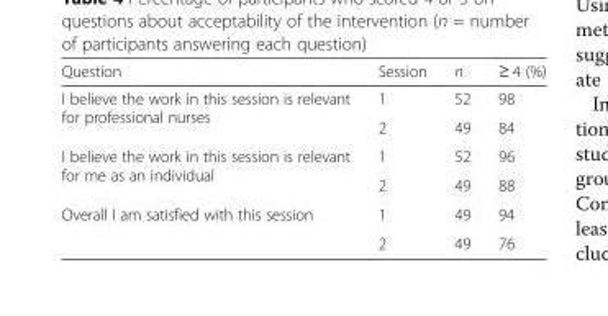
<table><thead><tr><td>Question</td><td>Session</td><td>n</td><td>≥ 4 (%)</td></tr></thead><tbody><tr><td rowspan="2">I believe the work in this session is relevant for professional nurses</td><td>1</td><td>52</td><td>98</td></tr><tr><td>2</td><td>49</td><td>84</td></tr><tr><td rowspan="2">I believe the work in this session is relevant for me as an individual</td><td>1</td><td>52</td><td>96</td></tr><tr><td>2</td><td>49</td><td>88</td></tr><tr><td rowspan="2">Overall I am satisfied with this session</td><td>1</td><td>49</td><td>94</td></tr><tr><td>2</td><td>49</td><td>76</td></tr></tbody></table>